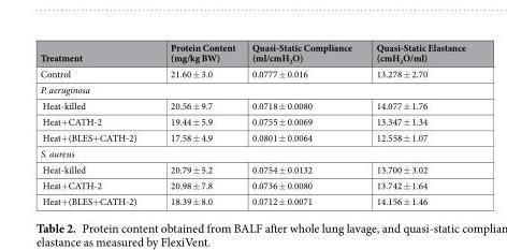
<table><thead><tr><td>Treatment</td><td>Protein Content (mg/kg BW)</td><td>Quasi-Static Compliance (ml/cmH<sub>2</sub>O)</td><td>Quasi-Static Elastance (cmH<sub>2</sub>O/ml)</td></tr></thead><tbody><tr><td>Control</td><td>21.60 ± 3.0</td><td>0.0777 ± 0.016</td><td>13.278 ± 2.70</td></tr><tr><td colspan="4">P. aeruginosa</td></tr><tr><td>Heat-killed</td><td>20.56 ± 9.7</td><td>0.0718 ± 0.0080</td><td>14.077 ± 1.76</td></tr><tr><td>Heat+CATH-2</td><td>19.44 ± 5.9</td><td>0.0755 ± 0.0069</td><td>13.347 ± 1.34</td></tr><tr><td>Heat+(BLES+CATH-2)</td><td>17.58 ± 4.9</td><td>0.0801 ± 0.0064</td><td>12.558 ± 1.07</td></tr><tr><td colspan="4">S. aureus</td></tr><tr><td>Heat-killed</td><td>20.79 ± 5.2</td><td>0.0754 ± 0.0132</td><td>13.700 ± 3.02</td></tr><tr><td>Heat+CATH-2</td><td>20.98 ± 7.8</td><td>0.0736 ± 0.0080</td><td>13.742 ± 1.64</td></tr><tr><td>Heat+(BLES+CATH-2)</td><td>18.39 ± 8.0</td><td>0.0712 ± 0.0071</td><td>14.156 ± 1.46</td></tr></tbody></table>